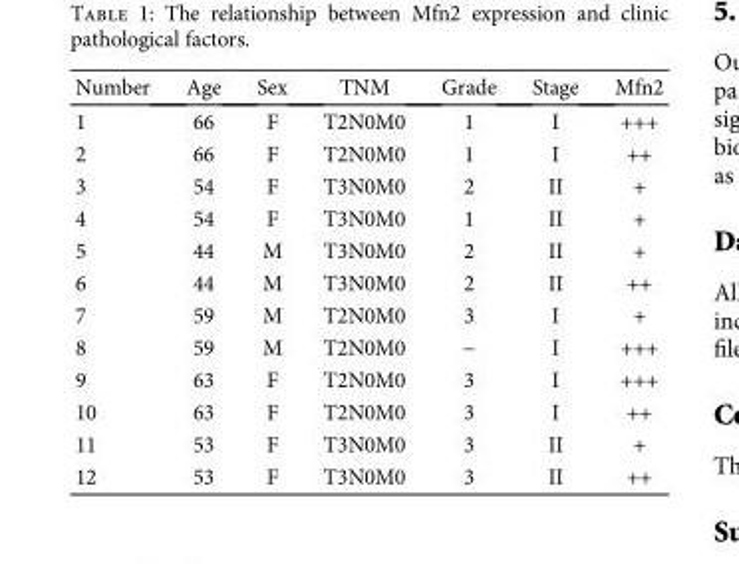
<table><thead><tr><td>Number</td><td>Age</td><td>Sex</td><td>TNM</td><td>Grade</td><td>Stage</td><td>Mfn2</td></tr></thead><tbody><tr><td>1</td><td>66</td><td>F</td><td>T2N0M0</td><td>1</td><td>I</td><td>+++</td></tr><tr><td>2</td><td>66</td><td>F</td><td>T2N0M0</td><td>1</td><td>I</td><td>++</td></tr><tr><td>3</td><td>54</td><td>F</td><td>T3N0M0</td><td>2</td><td>II</td><td>+</td></tr><tr><td>4</td><td>54</td><td>F</td><td>T3N0M0</td><td>1</td><td>II</td><td>+</td></tr><tr><td>5</td><td>44</td><td>M</td><td>T3N0M0</td><td>2</td><td>II</td><td>+</td></tr><tr><td>6</td><td>44</td><td>M</td><td>T3N0M0</td><td>2</td><td>II</td><td>++</td></tr><tr><td>7</td><td>59</td><td>M</td><td>T2N0M0</td><td>3</td><td>I</td><td>+</td></tr><tr><td>8</td><td>59</td><td>M</td><td>T2N0M0</td><td>−</td><td>I</td><td>+++</td></tr><tr><td>9</td><td>63</td><td>F</td><td>T2N0M0</td><td>3</td><td>I</td><td>+++</td></tr><tr><td>10</td><td>63</td><td>F</td><td>T2N0M0</td><td>3</td><td>I</td><td>++</td></tr><tr><td>11</td><td>53</td><td>F</td><td>T3N0M0</td><td>3</td><td>II</td><td>+</td></tr><tr><td>12</td><td>53</td><td>F</td><td>T3N0M0</td><td>3</td><td>II</td><td>++</td></tr></tbody></table>